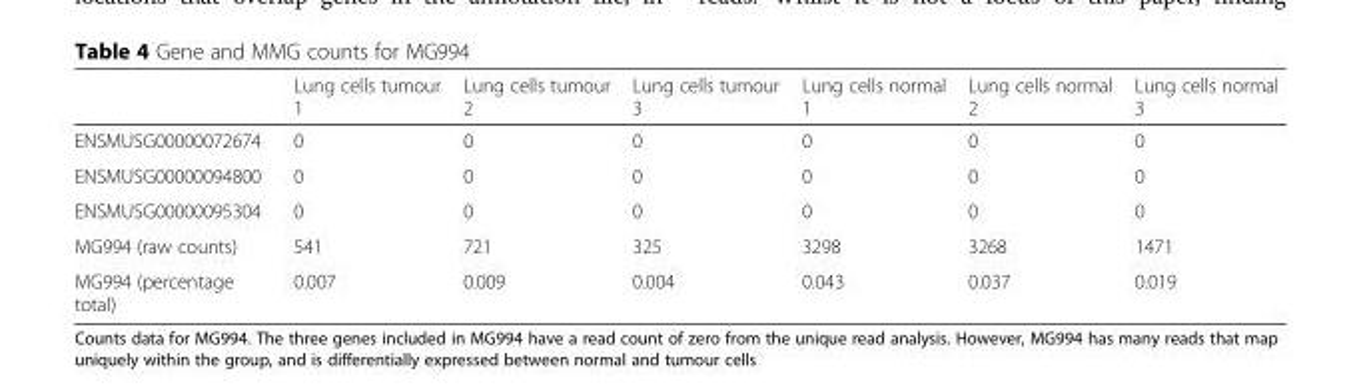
<table><thead><tr><td></td><td>Lung cells tumour 1</td><td>Lung cells tumour 2</td><td>Lung cells tumour 3</td><td>Lung cells normal 1</td><td>Lung cells normal 2</td><td>Lung cells normal 3</td></tr></thead><tbody><tr><td>ENSMUSG00000072674</td><td>0</td><td>0</td><td>0</td><td>0</td><td>0</td><td>0</td></tr><tr><td>ENSMUSG00000094800</td><td>0</td><td>0</td><td>0</td><td>0</td><td>0</td><td>0</td></tr><tr><td>ENSMUSG00000095304</td><td>0</td><td>0</td><td>0</td><td>0</td><td>0</td><td>0</td></tr><tr><td>MG994 (raw counts)</td><td>541</td><td>721</td><td>325</td><td>3298</td><td>3268</td><td>1471</td></tr><tr><td>MG994 (percentage total)</td><td>0.007</td><td>0.009</td><td>0.004</td><td>0.043</td><td>0.037</td><td>0.019</td></tr></tbody></table>